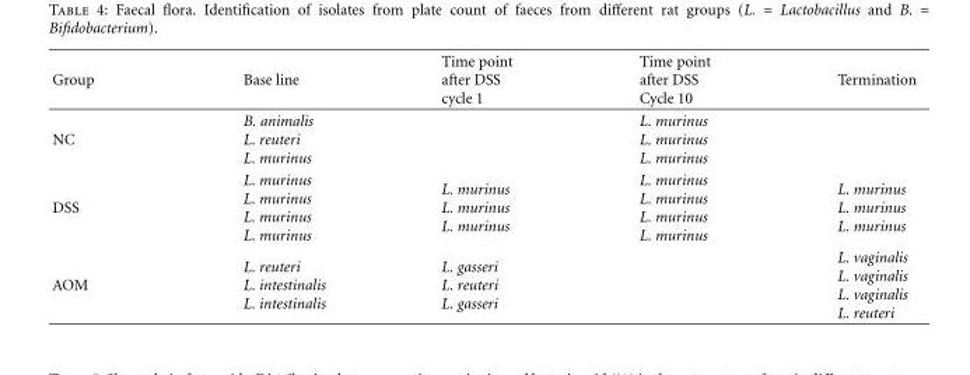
<table><thead><tr><td>Group</td><td>Base line</td><td>Time point after DSS cycle 1</td><td>Time point after DSS Cycle 10</td><td>Termination</td></tr></thead><tbody><tr><td>NC</td><td>B. animalis L. reuteri L. murinus</td><td></td><td>L. murinus L. murinus L. murinus</td><td></td></tr><tr><td>DSS</td><td>L. murinus L. murinus L. murinus L. murinus</td><td>L. murinus L. murinus L. murinus</td><td>L. murinus L. murinus L. murinus L. murinus</td><td>L. murinus L. murinus L. murinus</td></tr><tr><td>AOM</td><td>L. reuteri L. intestinalis L. intestinalis</td><td>L. gasseri L. reuteri L. gasseri</td><td></td><td>L. vaginalis L. vaginalis L. vaginalis L. reuteri</td></tr></tbody></table>